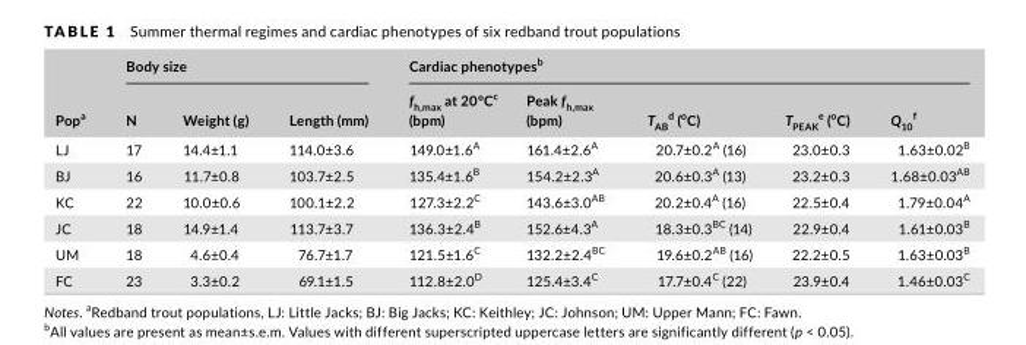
<table><thead><tr><td rowspan="2">Pop<sup>a</sup></td><td colspan="3">Body size</td><td colspan="5">Cardiac phenotypes<sup>b</sup></td></tr><tr><td>N</td><td>Weight (g)</td><td>Length (mm)</td><td>f<sub>h,max</sub> at 20°C<sup>c</sup> (bpm)</td><td>Peak f<sub>h,max</sub> (bpm)</td><td>T<sub>AB</sub> d (<sup>o</sup>C)</td><td>T<sub>PEAK</sub> e (<sup>o</sup>C)</td><td>Q<sub>10</sub> f</td></tr></thead><tbody><tr><td>LJ</td><td>17</td><td>14.4±1.1</td><td>114.0±3.6</td><td>149.0±1.6<sup>A</sup></td><td>161.4±2.6<sup>A</sup></td><td>20.7±0.2<sup>A</sup> (16)</td><td>23.0±0.3</td><td>1.63±0.02<sup>B</sup></td></tr><tr><td>BJ</td><td>16</td><td>11.7±0.8</td><td>103.7±2.5</td><td>135.4±1.6<sup>B</sup></td><td>154.2±2.3<sup>A</sup></td><td>20.6±0.3<sup>A</sup> (13)</td><td>23.2±0.3</td><td>1.68±0.03<sup>AB</sup></td></tr><tr><td>KC</td><td>22</td><td>10.0±0.6</td><td>100.1±2.2</td><td>127.3±2.2<sup>C</sup></td><td>143.6±3.0<sup>AB</sup></td><td>20.2±0.4<sup>A</sup> (16)</td><td>22.5±0.4</td><td>1.79±0.04<sup>A</sup></td></tr><tr><td>JC</td><td>18</td><td>14.9±1.4</td><td>113.7±3.7</td><td>136.3±2.4<sup>B</sup></td><td>152.6±4.3<sup>A</sup></td><td>18.3±0.3<sup>BC</sup> (14)</td><td>22.9±0.4</td><td>1.61±0.03<sup>B</sup></td></tr><tr><td>UM</td><td>18</td><td>4.6±0.4</td><td>76.7±1.7</td><td>121.5±1.6<sup>C</sup></td><td>132.2±2.4<sup>BC</sup></td><td>19.6±0.2<sup>AB</sup> (16)</td><td>22.2±0.5</td><td>1.63±0.03<sup>B</sup></td></tr><tr><td>FC</td><td>23</td><td>3.3±0.2</td><td>69.1±1.5</td><td>112.8±2.0<sup>D</sup></td><td>125.4±3.4<sup>C</sup></td><td>17.7±0.4<sup>C</sup> (22)</td><td>23.9±0.4</td><td>1.46±0.03<sup>C</sup></td></tr></tbody></table>